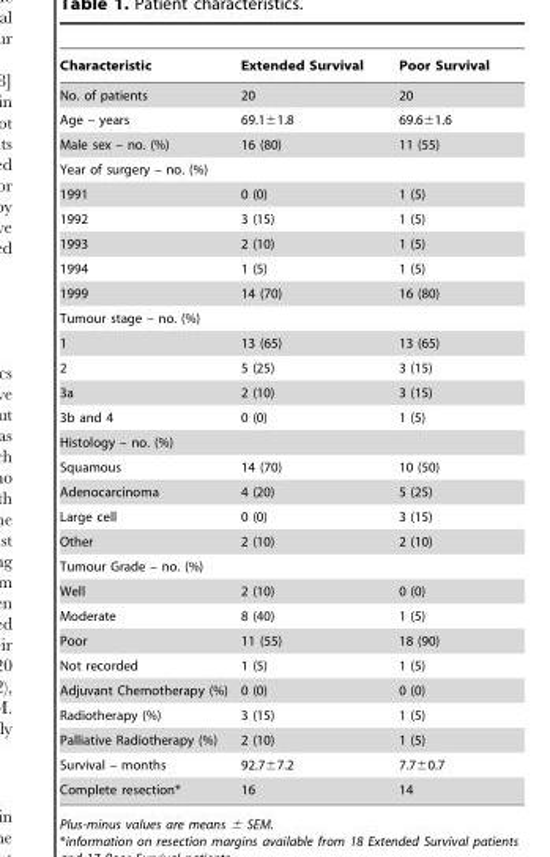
<table><thead><tr><td>Characteristic</td><td>Extended Survival</td><td>Poor Survival</td></tr></thead><tbody><tr><td>No. of patients</td><td>20</td><td>20</td></tr><tr><td>Age – years</td><td>69.1±1.8</td><td>69.6±1.6</td></tr><tr><td>Male sex – no. (%)</td><td>16 (80)</td><td>11 (55)</td></tr><tr><td colspan="3">Year of surgery – no. (%)</td></tr><tr><td>1991</td><td>0 (0)</td><td>1 (5)</td></tr><tr><td>1992</td><td>3 (15)</td><td>1 (5)</td></tr><tr><td>1993</td><td>2 (10)</td><td>1 (5)</td></tr><tr><td>1994</td><td>1 (5)</td><td>1 (5)</td></tr><tr><td>1999</td><td>14 (70)</td><td>16 (80)</td></tr><tr><td colspan="3">Tumour stage – no. (%)</td></tr><tr><td>1</td><td>13 (65)</td><td>13 (65)</td></tr><tr><td>2</td><td>5 (25)</td><td>3 (15)</td></tr><tr><td>3a</td><td>2 (10)</td><td>3 (15)</td></tr><tr><td>3b and 4</td><td>0 (0)</td><td>1 (5)</td></tr><tr><td colspan="3">Histology – no. (%)</td></tr><tr><td>Squamous</td><td>14 (70)</td><td>10 (50)</td></tr><tr><td>Adenocarcinoma</td><td>4 (20)</td><td>5 (25)</td></tr><tr><td>Large cell</td><td>0 (0)</td><td>3 (15)</td></tr><tr><td>Other</td><td>2 (10)</td><td>2 (10)</td></tr><tr><td colspan="3">Tumour Grade – no. (%)</td></tr><tr><td>Well</td><td>2 (10)</td><td>0 (0)</td></tr><tr><td>Moderate</td><td>8 (40)</td><td>1 (5)</td></tr><tr><td>Poor</td><td>11 (55)</td><td>18 (90)</td></tr><tr><td>Not recorded</td><td>1 (5)</td><td>1 (5)</td></tr><tr><td>Adjuvant Chemotherapy (%)</td><td>0 (0)</td><td>0 (0)</td></tr><tr><td>Radiotherapy (%)</td><td>3 (15)</td><td>1 (5)</td></tr><tr><td>Palliative Radiotherapy (%)</td><td>2 (10)</td><td>1 (5)</td></tr><tr><td>Survival – months</td><td>92.7±7.2</td><td>7.7±0.7</td></tr><tr><td>Complete resection*</td><td>16</td><td>14</td></tr></tbody></table>